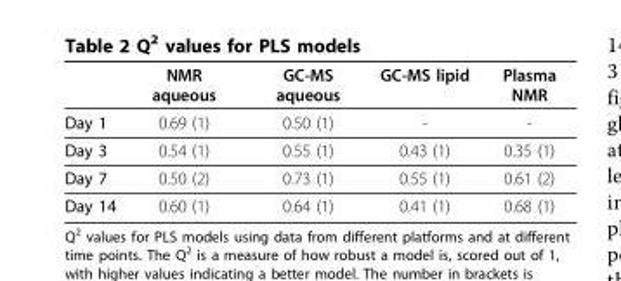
<table><thead><tr><td></td><td>NMR aqueous</td><td>GC-MS aqueous</td><td>GC-MS lipid</td><td>Plasma NMR</td></tr></thead><tbody><tr><td>Day 1</td><td>0.69 (1)</td><td>0.50 (1)</td><td>-</td><td>-</td></tr><tr><td>Day 3</td><td>0.54 (1)</td><td>0.55 (1)</td><td>0.43 (1)</td><td>0.35 (1)</td></tr><tr><td>Day 7</td><td>0.50 (2)</td><td>0.73 (1)</td><td>0.55 (1)</td><td>0.61 (2)</td></tr><tr><td>Day 14</td><td>0.60 (1)</td><td>0.64 (1)</td><td>0.41 (1)</td><td>0.68 (1)</td></tr></tbody></table>